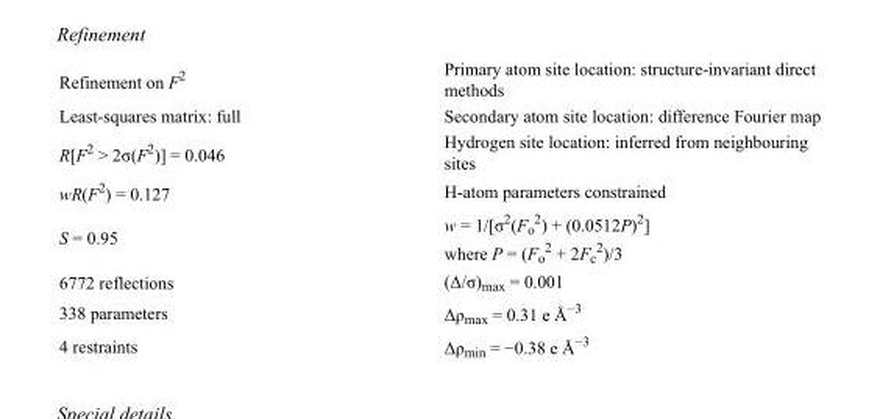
<table><tbody><tr><td>Refinement on F<sup>2</sup></td><td>Primary atom site location: structure-invariant direct methods</td></tr><tr><td>Least-squares matrix: full</td><td>Secondary atom site location: difference Fourier map</td></tr><tr><td>R[F<sup>2</sup> &gt; 2σ(F<sup>2</sup>)] = 0.046</td><td>Hydrogen site location: inferred from neighbouring sites</td></tr><tr><td>wR(F<sup>2</sup>) = 0.127</td><td>H-atom parameters constrained</td></tr><tr><td>S = 0.95</td><td>w = 1/[σ<sup>2</sup>(F<sub>o</sub> <sup>2</sup>) + (0.0512P)<sup>2</sup>] where P = (F<sub>o</sub> <sup>2</sup> + 2F<sub>c</sub> <sup>2</sup>)/3</td></tr><tr><td>6772 reflections</td><td>(Δ/σ)<sub>max</sub> = 0.001</td></tr><tr><td>338 parameters</td><td>Δρ<sub>max</sub> = 0.31 e Å<sup>−3</sup></td></tr><tr><td>4 restraints</td><td>Δρ<sub>min</sub> = −0.38 e Å<sup>−3</sup></td></tr></tbody></table>